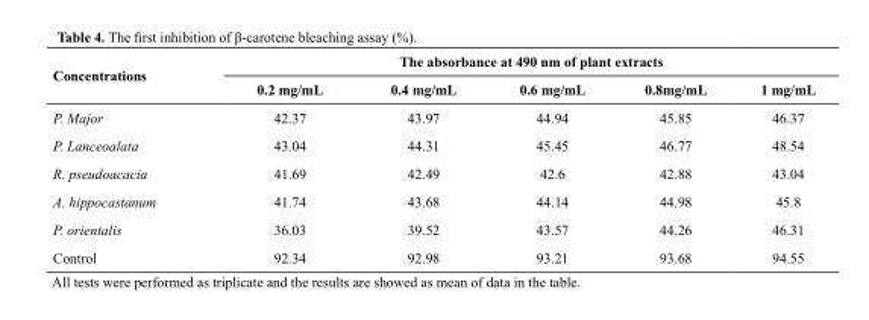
<table><thead><tr><td rowspan="2">Concentrations</td><td colspan="5">The absorbance at 490 nm of plant extracts</td></tr><tr><td>0.2 mg/mL</td><td>0.4 mg/mL</td><td>0.6 mg/mL</td><td>0.8mg/mL</td><td>1 mg/mL</td></tr></thead><tbody><tr><td>P. Major</td><td>42.37</td><td>43.97</td><td>44.94</td><td>45.85</td><td>46.37</td></tr><tr><td>P. Lanceoalata</td><td>43.04</td><td>44.31</td><td>45.45</td><td>46.77</td><td>48.54</td></tr><tr><td>R. pseudoacacia</td><td>41.69</td><td>42.49</td><td>42.6</td><td>42.88</td><td>43.04</td></tr><tr><td>A. hippocastanum</td><td>41.74</td><td>43.68</td><td>44.14</td><td>44.98</td><td>45.8</td></tr><tr><td>P. orientalis</td><td>36.03</td><td>39.52</td><td>43.57</td><td>44.26</td><td>46.31</td></tr><tr><td>Control</td><td>92.34</td><td>92.98</td><td>93.21</td><td>93.68</td><td>94.55</td></tr></tbody></table>